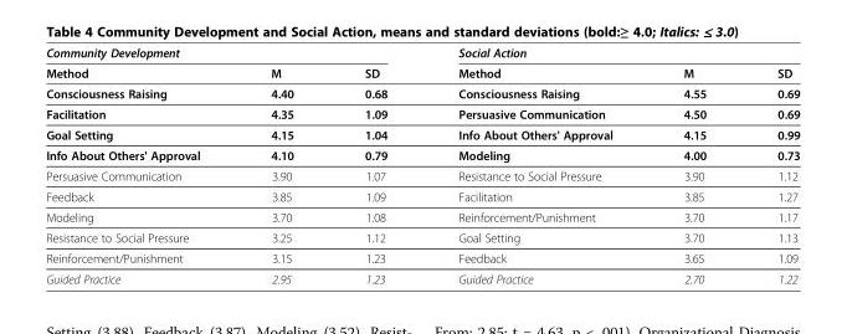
<table><thead><tr><td colspan="3">Community Development</td><td colspan="3">Social Action</td></tr><tr><td>Method</td><td>M</td><td>SD</td><td>Method</td><td>M</td><td>SD</td></tr></thead><tbody><tr><td>Consciousness Raising</td><td>4.40</td><td>0.68</td><td>Consciousness Raising</td><td>4.55</td><td>0.69</td></tr><tr><td>Facilitation</td><td>4.35</td><td>1.09</td><td>Persuasive Communication</td><td>4.50</td><td>0.69</td></tr><tr><td>Goal Setting</td><td>4.15</td><td>1.04</td><td>Info About Others&#x27; Approval</td><td>4.15</td><td>0.99</td></tr><tr><td>Info About Others&#x27; Approval</td><td>4.10</td><td>0.79</td><td>Modeling</td><td>4.00</td><td>0.73</td></tr><tr><td>Persuasive Communication</td><td>3.90</td><td>1.07</td><td>Resistance to Social Pressure</td><td>3.90</td><td>1.12</td></tr><tr><td>Feedback</td><td>3.85</td><td>1.09</td><td>Facilitation</td><td>3.85</td><td>1.27</td></tr><tr><td>Modeling</td><td>3.70</td><td>1.08</td><td>Reinforcement/Punishment</td><td>3.70</td><td>1.17</td></tr><tr><td>Resistance to Social Pressure</td><td>3.25</td><td>1.12</td><td>Goal Setting</td><td>3.70</td><td>1.13</td></tr><tr><td>Reinforcement/Punishment</td><td>3.15</td><td>1.23</td><td>Feedback</td><td>3.65</td><td>1.09</td></tr><tr><td>Guided Practice</td><td>2.95</td><td>1.23</td><td>Guided Practice</td><td>2.70</td><td>1.22</td></tr></tbody></table>